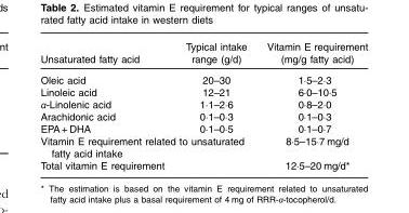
<table><thead><tr><td>Unsaturated fatty acid</td><td>Typical intake range (g/d)</td><td>Vitamin E requirement (mg/g fatty acid)</td></tr></thead><tbody><tr><td>Oleic acid</td><td>20–30</td><td>1·5–2·3</td></tr><tr><td>Linoleic acid</td><td>12–21</td><td>6·0–10·5</td></tr><tr><td>α-Linolenic acid</td><td>1·1–2·6</td><td>0·8–2·0</td></tr><tr><td>Arachidonic acid</td><td>0·1–0·3</td><td>0·1–0·3</td></tr><tr><td>EPA + DHA</td><td>0·1–0·5</td><td>0·1–0·7</td></tr><tr><td colspan="2">Vitamin E requirement related to unsaturated fatty acid intake</td><td>8·5–15·7 mg/d</td></tr><tr><td colspan="2">Total vitamin E requirement</td><td>12·5–20 mg/d*</td></tr></tbody></table>